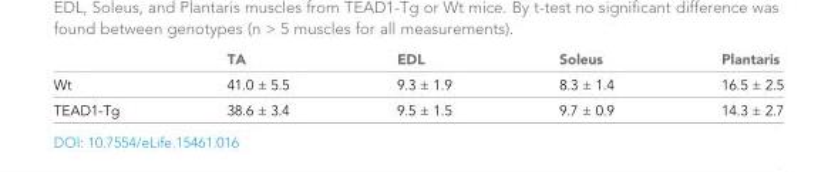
<table><thead><tr><td></td><td>TA</td><td>EDL</td><td>Soleus</td><td>Plantaris</td></tr></thead><tbody><tr><td>Wt</td><td>41.0 ± 5.5</td><td>9.3 ± 1.9</td><td>8.3 ± 1.4</td><td>16.5 ± 2.5</td></tr><tr><td>TEAD1-Tg</td><td>38.6 ± 3.4</td><td>9.5 ± 1.5</td><td>9.7 ± 0.9</td><td>14.3 ± 2.7</td></tr></tbody></table>